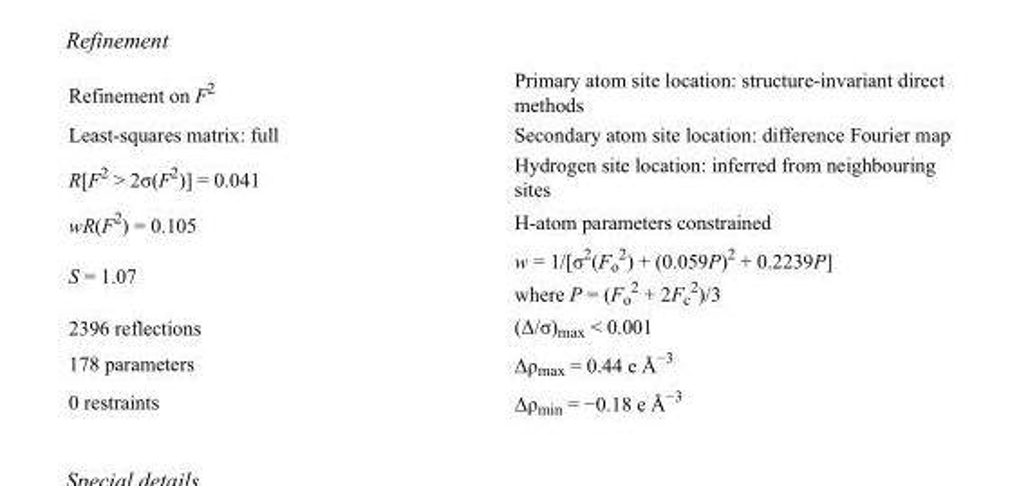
<table><tbody><tr><td>Refinement on F<sup>2</sup></td><td>Primary atom site location: structure-invariant direct methods</td></tr><tr><td>Least-squares matrix: full</td><td>Secondary atom site location: difference Fourier map</td></tr><tr><td>R[F<sup>2</sup> &gt; 2σ(F<sup>2</sup>)] = 0.041</td><td>Hydrogen site location: inferred from neighbouring sites</td></tr><tr><td>wR(F<sup>2</sup>) = 0.105</td><td>H-atom parameters constrained</td></tr><tr><td>S = 1.07</td><td>w = 1/[σ<sup>2</sup>(F<sub>o</sub> <sup>2</sup>) + (0.059P)<sup>2</sup> + 0.2239P] where P = (F<sub>o</sub> <sup>2</sup> + 2F<sub>c</sub> <sup>2</sup>)/3</td></tr><tr><td>2396 reflections</td><td>(Δ/σ)<sub>max</sub> &lt; 0.001</td></tr><tr><td>178 parameters</td><td>Δρ<sub>max</sub> = 0.44 e Å<sup>−3</sup></td></tr><tr><td>0 restraints</td><td>Δρ<sub>min</sub> = −0.18 e Å<sup>−3</sup></td></tr></tbody></table>